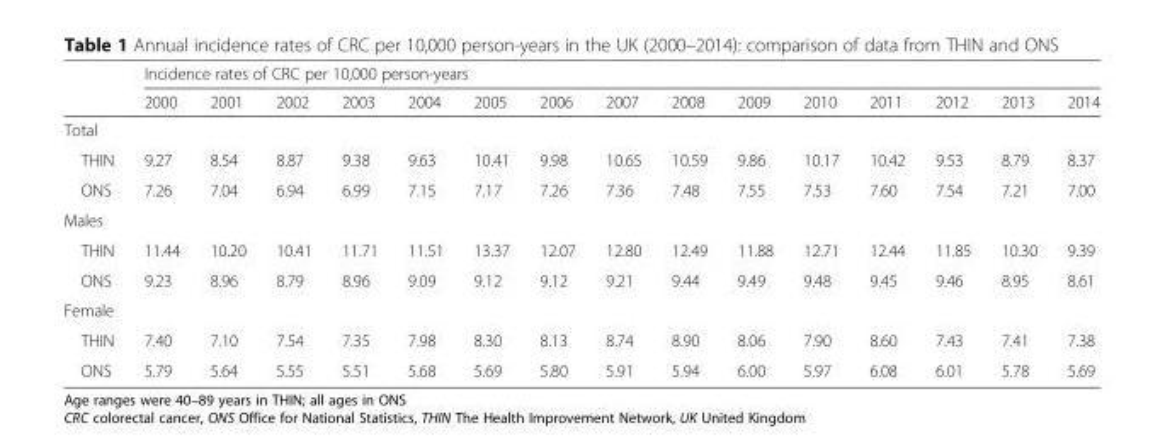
<table><thead><tr><td rowspan="2"></td><td colspan="15">Incidence rates of CRC per 10,000 person-years</td></tr><tr><td>2000</td><td>2001</td><td>2002</td><td>2003</td><td>2004</td><td>2005</td><td>2006</td><td>2007</td><td>2008</td><td>2009</td><td>2010</td><td>2011</td><td>2012</td><td>2013</td><td>2014</td></tr></thead><tbody><tr><td colspan="16">Total</td></tr><tr><td>THIN</td><td>9.27</td><td>8.54</td><td>8.87</td><td>9.38</td><td>9.63</td><td>10.41</td><td>9.98</td><td>10.65</td><td>10.59</td><td>9.86</td><td>10.17</td><td>10.42</td><td>9.53</td><td>8.79</td><td>8.37</td></tr><tr><td>ONS</td><td>7.26</td><td>7.04</td><td>6.94</td><td>6.99</td><td>7.15</td><td>7.17</td><td>7.26</td><td>7.36</td><td>7.48</td><td>7.55</td><td>7.53</td><td>7.60</td><td>7.54</td><td>7.21</td><td>7.00</td></tr><tr><td colspan="16">Males</td></tr><tr><td>THIN</td><td>11.44</td><td>10.20</td><td>10.41</td><td>11.71</td><td>11.51</td><td>13.37</td><td>12.07</td><td>12.80</td><td>12.49</td><td>11.88</td><td>12.71</td><td>12.44</td><td>11.85</td><td>10.30</td><td>9.39</td></tr><tr><td>ONS</td><td>9.23</td><td>8.96</td><td>8.79</td><td>8.96</td><td>9.09</td><td>9.12</td><td>9.12</td><td>9.21</td><td>9.44</td><td>9.49</td><td>9.48</td><td>9.45</td><td>9.46</td><td>8.95</td><td>8.61</td></tr><tr><td colspan="16">Female</td></tr><tr><td>THIN</td><td>7.40</td><td>7.10</td><td>7.54</td><td>7.35</td><td>7.98</td><td>8.30</td><td>8.13</td><td>8.74</td><td>8.90</td><td>8.06</td><td>7.90</td><td>8.60</td><td>7.43</td><td>7.41</td><td>7.38</td></tr><tr><td>ONS</td><td>5.79</td><td>5.64</td><td>5.55</td><td>5.51</td><td>5.68</td><td>5.69</td><td>5.80</td><td>5.91</td><td>5.94</td><td>6.00</td><td>5.97</td><td>6.08</td><td>6.01</td><td>5.78</td><td>5.69</td></tr></tbody></table>